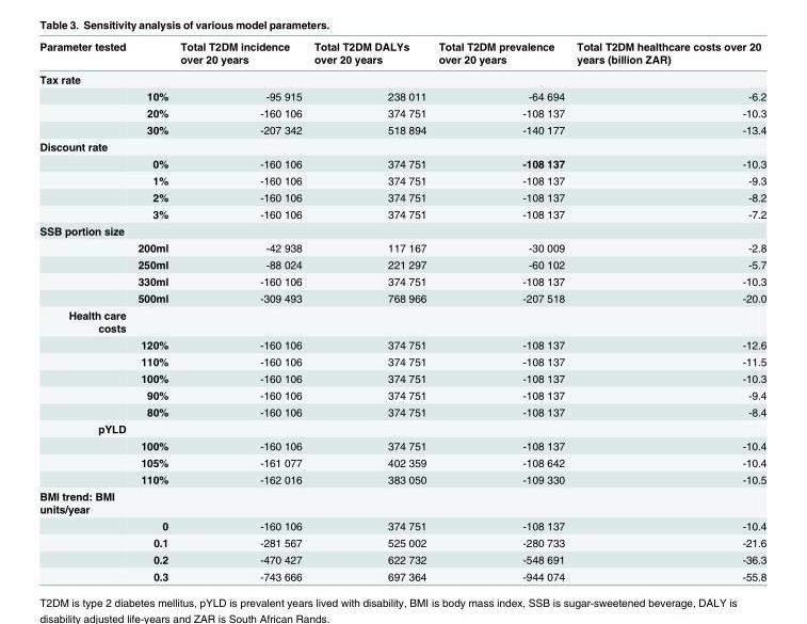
<table><thead><tr><td colspan="2">Parameter tested</td><td rowspan="2">Total T2DM incidence over 20 years</td><td rowspan="2">Total T2DM DALYs over 20 years</td><td rowspan="2">Total T2DM prevalence over 20 years</td><td rowspan="2">Total T2DM healthcare costs over 20 years (billion ZAR)</td></tr><tr><td>Tax rate</td><td></td></tr></thead><tbody><tr><td></td><td>10%</td><td>-95 915</td><td>238 011</td><td>-64 694</td><td>-6.2</td></tr><tr><td></td><td>20%</td><td>-160 106</td><td>374 751</td><td>-108 137</td><td>-10.3</td></tr><tr><td></td><td>30%</td><td>-207 342</td><td>518 894</td><td>-140 177</td><td>-13.4</td></tr><tr><td colspan="6">Discount rate</td></tr><tr><td></td><td>0%</td><td>-160 106</td><td>374 751</td><td>-108 137</td><td>-10.3</td></tr><tr><td></td><td>1%</td><td>-160 106</td><td>374 751</td><td>-108 137</td><td>-9.3</td></tr><tr><td></td><td>2%</td><td>-160 106</td><td>374 751</td><td>-108 137</td><td>-8.2</td></tr><tr><td></td><td>3%</td><td>-160 106</td><td>374 751</td><td>-108 137</td><td>-7.2</td></tr><tr><td colspan="6">SSB portion size</td></tr><tr><td></td><td>200ml</td><td>-42 938</td><td>117 167</td><td>-30 009</td><td>-2.8</td></tr><tr><td></td><td>250ml</td><td>-88 024</td><td>221 297</td><td>-60 102</td><td>-5.7</td></tr><tr><td></td><td>330ml</td><td>-160 106</td><td>374 751</td><td>-108 137</td><td>-10.3</td></tr><tr><td></td><td>500ml</td><td>-309 493</td><td>768 966</td><td>-207 518</td><td>-20.0</td></tr><tr><td colspan="6">Health care costs</td></tr><tr><td></td><td>120%</td><td>-160 106</td><td>374 751</td><td>-108 137</td><td>-12.6</td></tr><tr><td></td><td>110%</td><td>-160 106</td><td>374 751</td><td>-108 137</td><td>-11.5</td></tr><tr><td></td><td>100%</td><td>-160 106</td><td>374 751</td><td>-108 137</td><td>-10.3</td></tr><tr><td></td><td>90%</td><td>-160 106</td><td>374 751</td><td>-108 137</td><td>-9.4</td></tr><tr><td></td><td>80%</td><td>-160 106</td><td>374 751</td><td>-108 137</td><td>-8.4</td></tr><tr><td colspan="6">pYLD</td></tr><tr><td></td><td>100%</td><td>-160 106</td><td>374 751</td><td>-108 137</td><td>-10.4</td></tr><tr><td></td><td>105%</td><td>-161 077</td><td>402 359</td><td>-108 642</td><td>-10.4</td></tr><tr><td></td><td>110%</td><td>-162 016</td><td>383 050</td><td>-109 330</td><td>-10.5</td></tr><tr><td colspan="6">BMI trend: BMI units/year</td></tr><tr><td></td><td>0</td><td>-160 106</td><td>374 751</td><td>-108 137</td><td>-10.4</td></tr><tr><td></td><td>0.1</td><td>-281 567</td><td>525 002</td><td>-280 733</td><td>-21.6</td></tr><tr><td></td><td>0.2</td><td>-470 427</td><td>622 732</td><td>-548 691</td><td>-36.3</td></tr><tr><td></td><td>0.3</td><td>-743 666</td><td>697 364</td><td>-944 074</td><td>-55.8</td></tr></tbody></table>